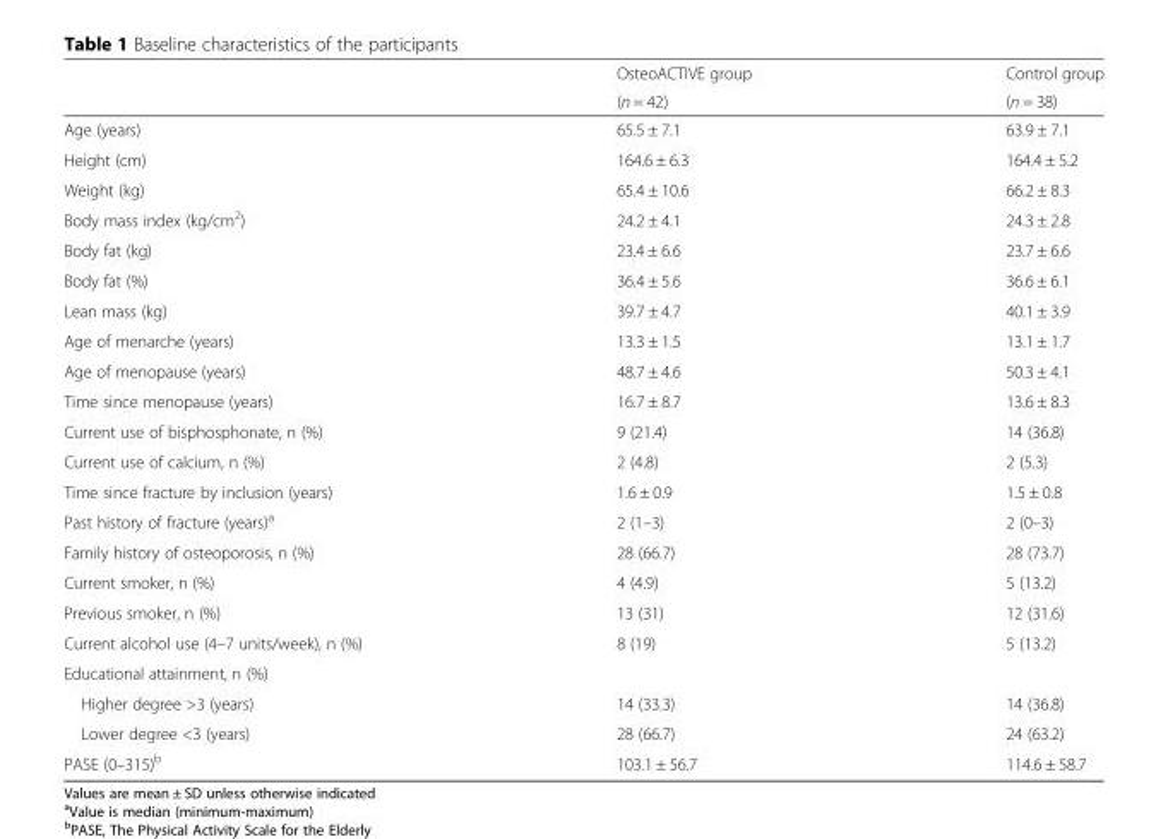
<table><thead><tr><td rowspan="2"></td><td rowspan="2">OsteoACTIVE group (n = 42)</td><td rowspan="2">Control group (n = 38)</td></tr><tr></tr></thead><tbody><tr><td>Age (years)</td><td>65.5 ± 7.1</td><td>63.9 ± 7.1</td></tr><tr><td>Height (cm)</td><td>164.6 ± 6.3</td><td>164.4 ± 5.2</td></tr><tr><td>Weight (kg)</td><td>65.4 ± 10.6</td><td>66.2 ± 8.3</td></tr><tr><td>Body mass index (kg/cm<sup>2</sup>)</td><td>24.2 ± 4.1</td><td>24.3 ± 2.8</td></tr><tr><td>Body fat (kg)</td><td>23.4 ± 6.6</td><td>23.7 ± 6.6</td></tr><tr><td>Body fat (%)</td><td>36.4 ± 5.6</td><td>36.6 ± 6.1</td></tr><tr><td>Lean mass (kg)</td><td>39.7 ± 4.7</td><td>40.1 ± 3.9</td></tr><tr><td>Age of menarche (years)</td><td>13.3 ± 1.5</td><td>13.1 ± 1.7</td></tr><tr><td>Age of menopause (years)</td><td>48.7 ± 4.6</td><td>50.3 ± 4.1</td></tr><tr><td>Time since menopause (years)</td><td>16.7 ± 8.7</td><td>13.6 ± 8.3</td></tr><tr><td>Current use of bisphosphonate, n (%)</td><td>9 (21.4)</td><td>14 (36.8)</td></tr><tr><td>Current use of calcium, n (%)</td><td>2 (4.8)</td><td>2 (5.3)</td></tr><tr><td>Time since fracture by inclusion (years)</td><td>1.6 ± 0.9</td><td>1.5 ± 0.8</td></tr><tr><td>Past history of fracture (years)<sup>a</sup></td><td>2 (1–3)</td><td>2 (0–3)</td></tr><tr><td>Family history of osteoporosis, n (%)</td><td>28 (66.7)</td><td>28 (73.7)</td></tr><tr><td>Current smoker, n (%)</td><td>4 (4.9)</td><td>5 (13.2)</td></tr><tr><td>Previous smoker, n (%)</td><td>13 (31)</td><td>12 (31.6)</td></tr><tr><td>Current alcohol use (4–7 units/week), n (%)</td><td>8 (19)</td><td>5 (13.2)</td></tr><tr><td colspan="3">Educational attainment, n (%)</td></tr><tr><td>Higher degree &gt;3 (years)</td><td>14 (33.3)</td><td>14 (36.8)</td></tr><tr><td>Lower degree &lt;3 (years)</td><td>28 (66.7)</td><td>24 (63.2)</td></tr><tr><td>PASE (0–315)<sup>b</sup></td><td>103.1 ± 56.7</td><td>114.6 ± 58.7</td></tr></tbody></table>